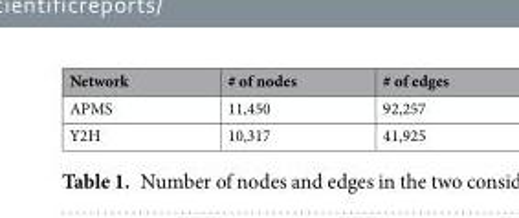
<table><thead><tr><td>Network</td><td># of nodes</td><td># of edges</td></tr></thead><tbody><tr><td>APMS</td><td>11,450</td><td>92,257</td></tr><tr><td>Y2H</td><td>10,317</td><td>41,925</td></tr></tbody></table>